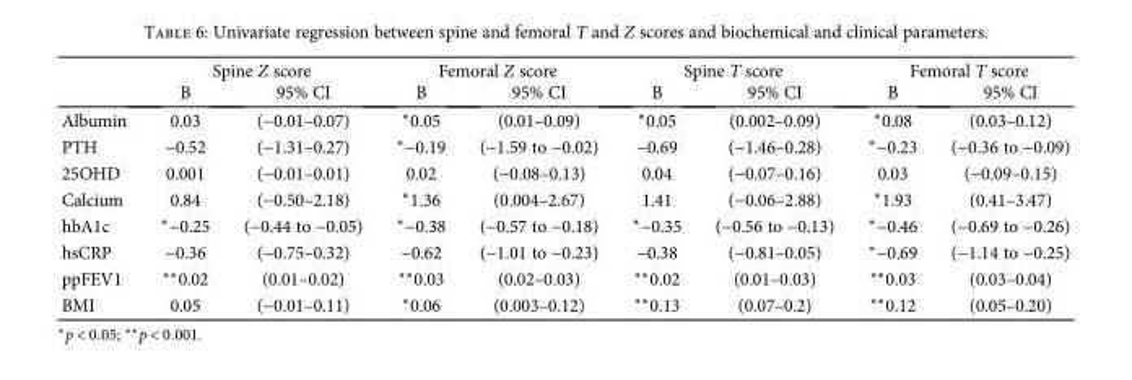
<table><thead><tr><td rowspan="2"></td><td colspan="2">Spine Z score</td><td colspan="2">Femoral Z score</td><td colspan="2">Spine T score</td><td colspan="2">Femoral T score</td></tr><tr><td>B</td><td>95% CI</td><td>B</td><td>95% CI</td><td>B</td><td>95% CI</td><td>B</td><td>95% CI</td></tr></thead><tbody><tr><td>Albumin</td><td>0.03</td><td>(−0.01–0.07)</td><td>∗0.05</td><td>(0.01–0.09)</td><td>∗0.05</td><td>(0.002–0.09)</td><td>∗0.08</td><td>(0.03–0.12)</td></tr><tr><td>PTH</td><td>−0.52</td><td>(−1.31–0.27)</td><td>∗−0.19</td><td>(−1.59 to −0.02)</td><td>−0.69</td><td>(−1.46–0.28)</td><td>∗−0.23</td><td>(−0.36 to −0.09)</td></tr><tr><td>25OHD</td><td>0.001</td><td>(−0.01–0.01)</td><td>0.02</td><td>(−0.08–0.13)</td><td>0.04</td><td>(−0.07–0.16)</td><td>0.03</td><td>(−0.09–0.15)</td></tr><tr><td>Calcium</td><td>0.84</td><td>(−0.50–2.18)</td><td>∗1.36</td><td>(0.004–2.67)</td><td>1.41</td><td>(−0.06–2.88)</td><td>∗1.93</td><td>(0.41–3.47)</td></tr><tr><td>hbA1c</td><td>∗−0.25</td><td>(−0.44 to −0.05)</td><td>∗−0.38</td><td>(−0.57 to −0.18)</td><td>∗−0.35</td><td>(−0.56 to −0.13)</td><td>∗−0.46</td><td>(−0.69 to −0.26)</td></tr><tr><td>hsCRP</td><td>−0.36</td><td>(−0.75–0.32)</td><td>−0.62</td><td>(−1.01 to −0.23)</td><td>−0.38</td><td>(−0.81–0.05)</td><td>∗−0.69</td><td>(−1.14 to −0.25)</td></tr><tr><td>ppFEV1</td><td>∗∗0.02</td><td>(0.01–0.02)</td><td>∗∗0.03</td><td>(0.02–0.03)</td><td>∗∗0.02</td><td>(0.01–0.03)</td><td>∗∗0.03</td><td>(0.03–0.04)</td></tr><tr><td>BMI</td><td>0.05</td><td>(−0.01–0.11)</td><td>∗0.06</td><td>(0.003–0.12)</td><td>∗∗0.13</td><td>(0.07–0.2)</td><td>∗∗0.12</td><td>(0.05–0.20)</td></tr></tbody></table>